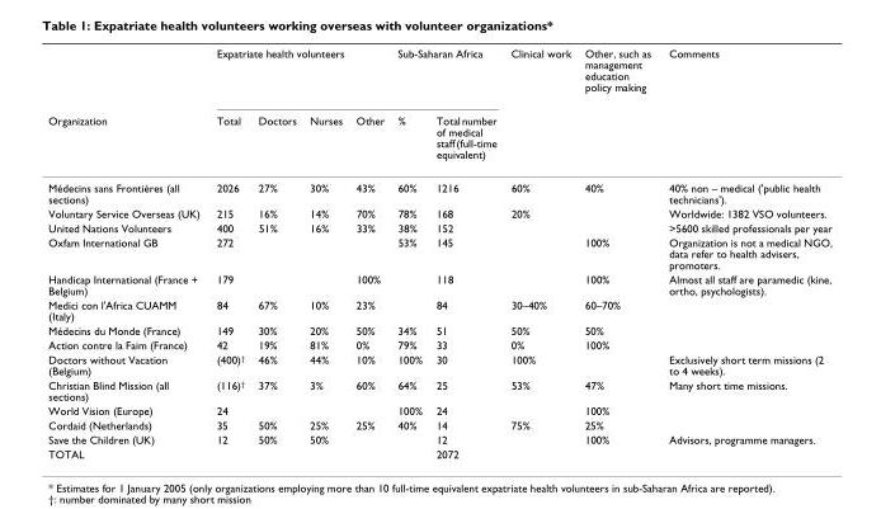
<table><thead><tr><td rowspan="2">Organization</td><td colspan="4">Expatriate health volunteers</td><td colspan="2">Sub-Saharan Africa</td><td rowspan="2">Clinical work</td><td rowspan="2">Other, such as management education policy making</td><td rowspan="2">Comments</td></tr><tr><td>Total</td><td>Doctors</td><td>Nurses</td><td>Other</td><td>%</td><td>Total number of medical staff (full-time equivalent)</td></tr></thead><tbody><tr><td>Médecins sans Frontières (all sections)</td><td>2026</td><td>27%</td><td>30%</td><td>43%</td><td>60%</td><td>1216</td><td>60%</td><td>40%</td><td>40% non – medical (&#x27;public health technicians&#x27;).</td></tr><tr><td>Voluntary Service Overseas (UK)</td><td>215</td><td>16%</td><td>14%</td><td>70%</td><td>78%</td><td>168</td><td>20%</td><td></td><td>Worldwide: 1382 VSO volunteers.</td></tr><tr><td>United Nations Volunteers</td><td>400</td><td>51%</td><td>16%</td><td>33%</td><td>38%</td><td>152</td><td></td><td></td><td>&gt;5600 skilled professionals per year</td></tr><tr><td>Oxfam International GB</td><td>272</td><td></td><td></td><td></td><td>53%</td><td>145</td><td></td><td>100%</td><td>Organization is not a medical NGO, data refer to health advisers, promoters.</td></tr><tr><td>Handicap International (France + Belgium)</td><td>179</td><td></td><td></td><td>100%</td><td></td><td>118</td><td></td><td>100%</td><td>Almost all staff are paramedic (kine, ortho, psychologists).</td></tr><tr><td>Medici con l&#x27;Africa CUAMM (Italy)</td><td>84</td><td>67%</td><td>10%</td><td>23%</td><td></td><td>84</td><td>30–40%</td><td>60–70%</td><td></td></tr><tr><td>Médecins du Monde (France)</td><td>149</td><td>30%</td><td>20%</td><td>50%</td><td>34%</td><td>51</td><td>50%</td><td>50%</td><td></td></tr><tr><td>Action contre la Faim (France)</td><td>42</td><td>19%</td><td>81%</td><td>0%</td><td>79%</td><td>33</td><td>0%</td><td>100%</td><td></td></tr><tr><td>Doctors without Vacation (Belgium)</td><td>(400)<sup>†</sup></td><td>46%</td><td>44%</td><td>10%</td><td>100%</td><td>30</td><td>100%</td><td></td><td>Exclusively short term missions (2 to 4 weeks).</td></tr><tr><td>Christian Blind Mission (all sections)</td><td>(116)<sup>†</sup></td><td>37%</td><td>3%</td><td>60%</td><td>64%</td><td>25</td><td>53%</td><td>47%</td><td>Many short time missions.</td></tr><tr><td>World Vision (Europe)</td><td>24</td><td></td><td></td><td></td><td>100%</td><td>24</td><td></td><td>100%</td><td></td></tr><tr><td>Cordaid (Netherlands)</td><td>35</td><td>50%</td><td>25%</td><td>25%</td><td>40%</td><td>14</td><td>75%</td><td>25%</td><td></td></tr><tr><td>Save the Children (UK)</td><td>12</td><td>50%</td><td>50%</td><td></td><td></td><td>12</td><td></td><td>100%</td><td>Advisors, programme managers.</td></tr><tr><td>TOTAL</td><td></td><td></td><td></td><td></td><td></td><td>2072</td><td></td><td></td><td></td></tr></tbody></table>